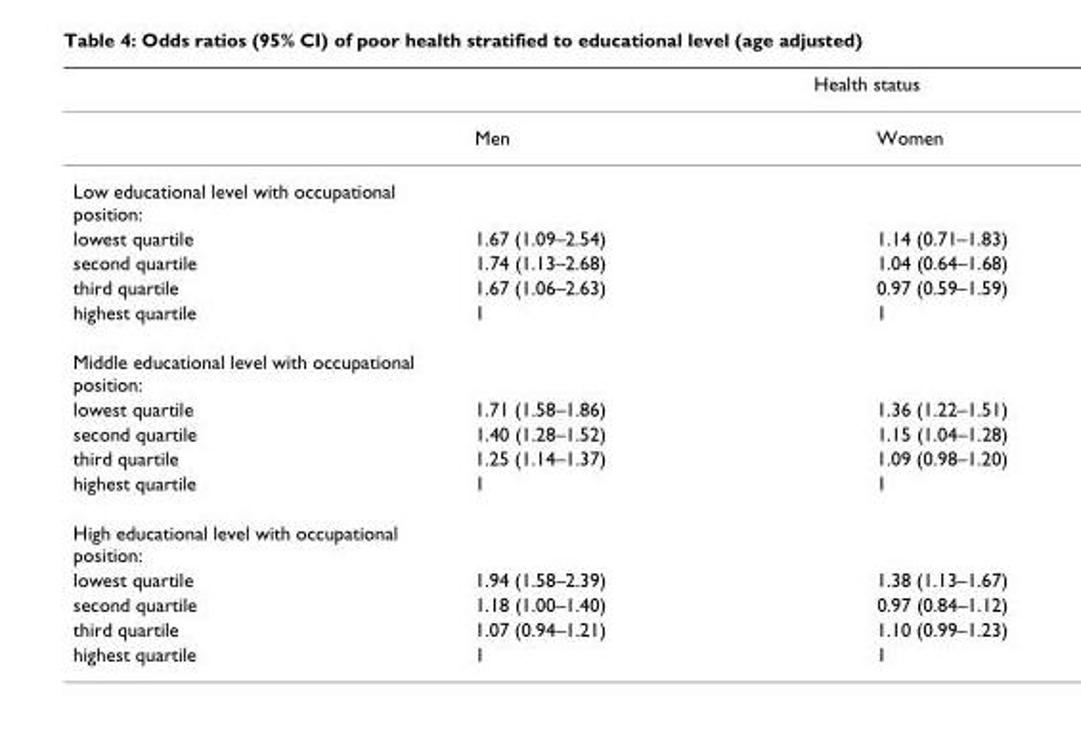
<table><thead><tr><td rowspan="2"></td><td colspan="2">Health status</td></tr><tr><td>Men</td><td>Women</td></tr></thead><tbody><tr><td colspan="3">Low educational level with occupational position:</td></tr><tr><td>lowest quartile</td><td>1.67 (1.09–2.54)</td><td>1.14 (0.71–1.83)</td></tr><tr><td>second quartile</td><td>1.74 (1.13–2.68)</td><td>1.04 (0.64–1.68)</td></tr><tr><td>third quartile</td><td>1.67 (1.06–2.63)</td><td>0.97 (0.59–1.59)</td></tr><tr><td>highest quartile</td><td>1</td><td>1</td></tr><tr><td colspan="3">Middle educational level with occupational position:</td></tr><tr><td>lowest quartile</td><td>1.71 (1.58–1.86)</td><td>1.36 (1.22–1.51)</td></tr><tr><td>second quartile</td><td>1.40 (1.28–1.52)</td><td>1.15 (1.04–1.28)</td></tr><tr><td>third quartile</td><td>1.25 (1.14–1.37)</td><td>1.09 (0.98–1.20)</td></tr><tr><td>highest quartile</td><td>1</td><td>1</td></tr><tr><td colspan="3">High educational level with occupational position:</td></tr><tr><td>lowest quartile</td><td>1.94 (1.58–2.39)</td><td>1.38 (1.13–1.67)</td></tr><tr><td>second quartile</td><td>1.18 (1.00–1.40)</td><td>0.97 (0.84–1.12)</td></tr><tr><td>third quartile</td><td>1.07 (0.94–1.21)</td><td>1.10 (0.99–1.23)</td></tr><tr><td>highest quartile</td><td>1</td><td>1</td></tr></tbody></table>